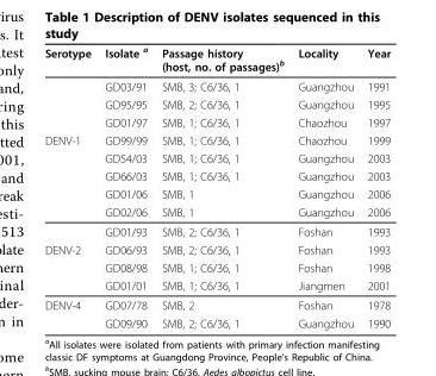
<table><thead><tr><td>Serotype</td><td>Isolate <sup>a</sup></td><td>Passage history (host, no. of passages)<sup>b</sup></td><td>Locality</td><td>Year</td></tr></thead><tbody><tr><td></td><td>GD03/91</td><td>SMB, 3; C6/36, 1</td><td>Guangzhou</td><td>1991</td></tr><tr><td></td><td>GD95/95</td><td>SMB, 2; C6/36, 1</td><td>Guangzhou</td><td>1995</td></tr><tr><td></td><td>GD01/97</td><td>SMB, 1; C6/36, 1</td><td>Chaozhou</td><td>1997</td></tr><tr><td rowspan="6">DENV-1</td><td>GD99/99</td><td>SMB, 1; C6/36, 1</td><td>Chaozhou</td><td>1999</td></tr><tr><td>GD54/03</td><td>SMB, 1; C6/36, 1</td><td>Guangzhou</td><td>2003</td></tr><tr><td>GD66/03</td><td>SMB, 1; C6/36, 1</td><td>Guangzhou</td><td>2003</td></tr><tr><td>GD01/06</td><td>SMB, 1</td><td>Guangzhou</td><td>2006</td></tr><tr><td>GD02/06</td><td>SMB, 1</td><td>Guangzhou</td><td>2006</td></tr><tr><td>GD01/93</td><td>SMB, 2; C6/36, 1</td><td>Foshan</td><td>1993</td></tr><tr><td rowspan="3">DENV-2</td><td>GD06/93</td><td>SMB, 2; C6/36, 1</td><td>Foshan</td><td>1993</td></tr><tr><td>GD08/98</td><td>SMB, 1; C6/36, 1</td><td>Foshan</td><td>1998</td></tr><tr><td>GD01/01</td><td>SMB, 1; C6/36, 1</td><td>Jiangmen</td><td>2001</td></tr><tr><td rowspan="2">DENV-4</td><td>GD07/78</td><td>SMB, 2</td><td>Foshan</td><td>1978</td></tr><tr><td>GD09/90</td><td>SMB, 2; C6/36, 1</td><td>Guangzhou</td><td>1990</td></tr></tbody></table>